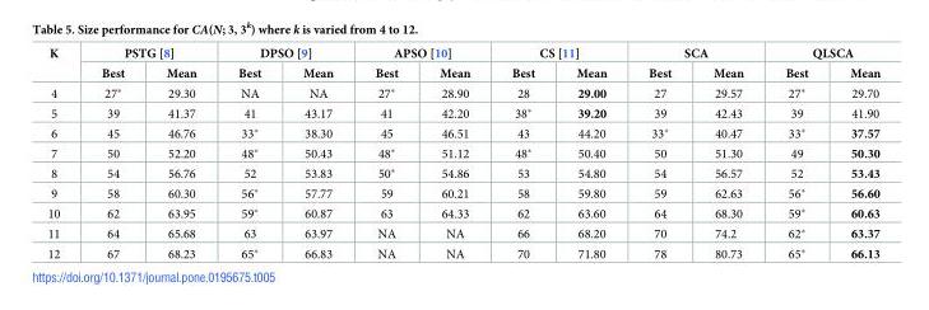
<table><thead><tr><td rowspan="2">K</td><td colspan="2">PSTG [8]</td><td colspan="2">DPSO [9]</td><td colspan="2">APSO [10]</td><td colspan="2">CS [11]</td><td colspan="2">SCA</td><td colspan="2">QLSCA</td></tr><tr><td>Best</td><td>Mean</td><td>Best</td><td>Mean</td><td>Best</td><td>Mean</td><td>Best</td><td>Mean</td><td>Best</td><td>Mean</td><td>Best</td><td>Mean</td></tr></thead><tbody><tr><td>4</td><td>27*</td><td>29.30</td><td>NA</td><td>NA</td><td>27*</td><td>28.90</td><td>28</td><td>29.00</td><td>27</td><td>29.57</td><td>27*</td><td>29.70</td></tr><tr><td>5</td><td>39</td><td>41.37</td><td>41</td><td>43.17</td><td>41</td><td>42.20</td><td>38*</td><td>39.20</td><td>39</td><td>42.43</td><td>39</td><td>41.90</td></tr><tr><td>6</td><td>45</td><td>46.76</td><td>33*</td><td>38.30</td><td>45</td><td>46.51</td><td>43</td><td>44.20</td><td>33*</td><td>40.47</td><td>33*</td><td>37.57</td></tr><tr><td>7</td><td>50</td><td>52.20</td><td>48*</td><td>50.43</td><td>48*</td><td>51.12</td><td>48*</td><td>50.40</td><td>50</td><td>51.30</td><td>49</td><td>50.30</td></tr><tr><td>8</td><td>54</td><td>56.76</td><td>52</td><td>53.83</td><td>50*</td><td>54.86</td><td>53</td><td>54.80</td><td>54</td><td>56.57</td><td>52</td><td>53.43</td></tr><tr><td>9</td><td>58</td><td>60.30</td><td>56*</td><td>57.77</td><td>59</td><td>60.21</td><td>58</td><td>59.80</td><td>59</td><td>62.63</td><td>56*</td><td>56.60</td></tr><tr><td>10</td><td>62</td><td>63.95</td><td>59*</td><td>60.87</td><td>63</td><td>64.33</td><td>62</td><td>63.60</td><td>64</td><td>68.30</td><td>59*</td><td>60.63</td></tr><tr><td>11</td><td>64</td><td>65.68</td><td>63</td><td>63.97</td><td>NA</td><td>NA</td><td>66</td><td>68.20</td><td>70</td><td>74.2</td><td>62*</td><td>63.37</td></tr><tr><td>12</td><td>67</td><td>68.23</td><td>65*</td><td>66.83</td><td>NA</td><td>NA</td><td>70</td><td>71.80</td><td>78</td><td>80.73</td><td>65*</td><td>66.13</td></tr></tbody></table>